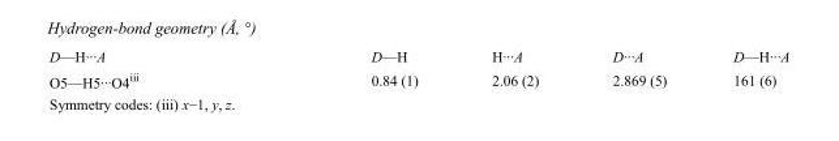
<table><tbody><tr><td>D—H···A</td><td>D—H</td><td>H···A</td><td>D···A</td><td>D—H···A</td></tr><tr><td>O5—H5···O4<sup>iii</sup></td><td>0.84 (1)</td><td>2.06 (2)</td><td>2.869 (5)</td><td>161 (6)</td></tr></tbody></table>